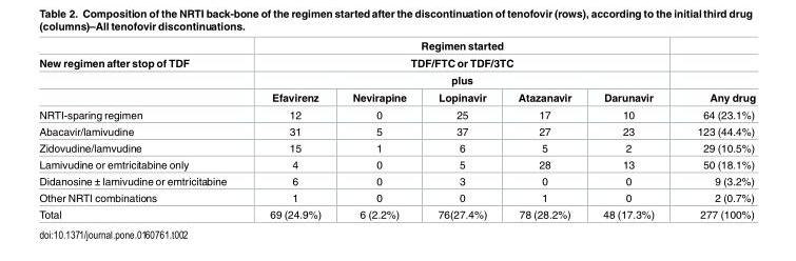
<table><thead><tr><td rowspan="4">New regimen after stop of TDF</td><td rowspan="3" colspan="5">Regimen started TDF/FTC or TDF/3TC plus</td><td rowspan="4">Any drug</td></tr><tr></tr><tr></tr><tr><td>Efavirenz</td><td>Nevirapine</td><td>Lopinavir</td><td>Atazanavir</td><td>Darunavir</td></tr></thead><tbody><tr><td>NRTI-sparing regimen</td><td>12</td><td>0</td><td>25</td><td>17</td><td>10</td><td>64 (23.1%)</td></tr><tr><td>Abacavir/lamivudine</td><td>31</td><td>5</td><td>37</td><td>27</td><td>23</td><td>123 (44.4%)</td></tr><tr><td>Zidovudine/lamvudine</td><td>15</td><td>1</td><td>6</td><td>5</td><td>2</td><td>29 (10.5%)</td></tr><tr><td>Lamivudine or emtricitabine only</td><td>4</td><td>0</td><td>5</td><td>28</td><td>13</td><td>50 (18.1%)</td></tr><tr><td>Didanosine ± lamivudine or emtricitabine</td><td>6</td><td>0</td><td>3</td><td>0</td><td>0</td><td>9 (3.2%)</td></tr><tr><td>Other NRTI combinations</td><td>1</td><td>0</td><td>0</td><td>1</td><td>0</td><td>2 (0.7%)</td></tr><tr><td>Total</td><td>69 (24.9%)</td><td>6 (2.2%)</td><td>76(27.4%)</td><td>78 (28.2%)</td><td>48 (17.3%)</td><td>277 (100%)</td></tr></tbody></table>